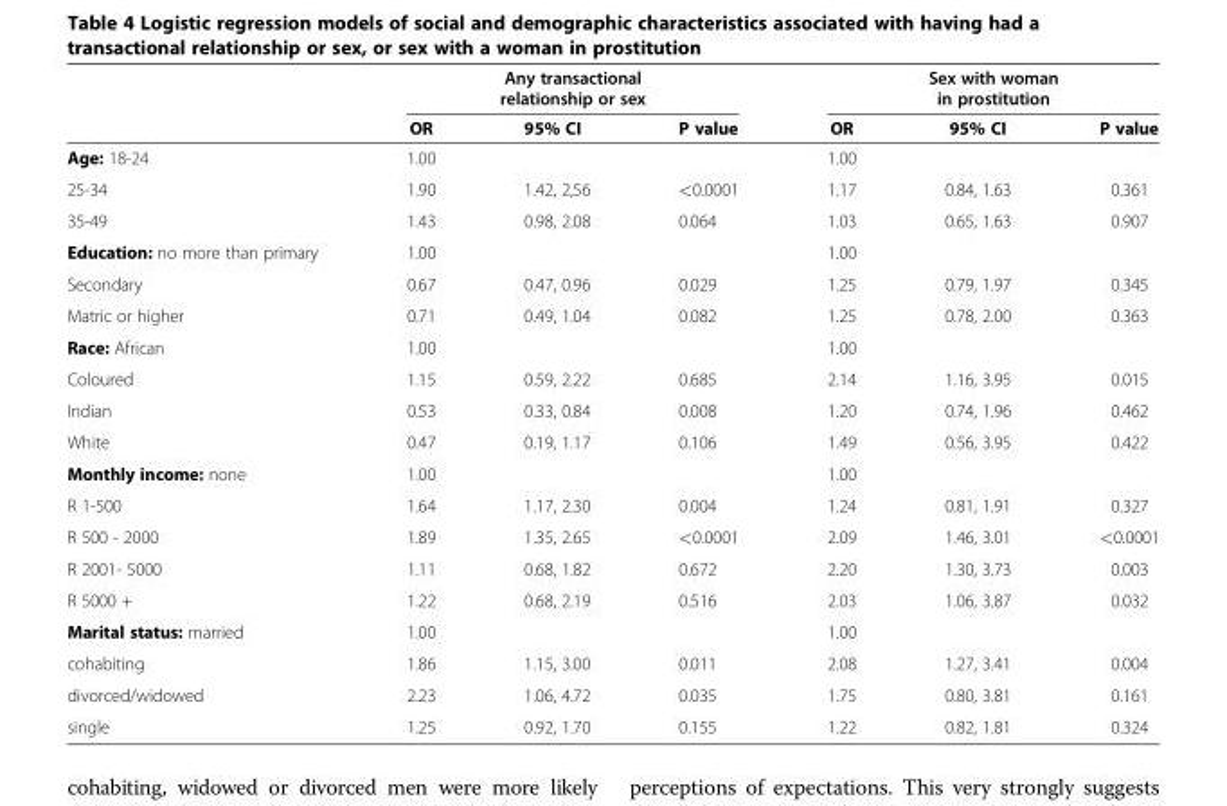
<table><thead><tr><td rowspan="2"></td><td colspan="3">Any transactional relationship or sex</td><td colspan="3">Sex with woman in prostitution</td></tr><tr><td>OR</td><td>95% CI</td><td>P value</td><td>OR</td><td>95% CI</td><td>P value</td></tr></thead><tbody><tr><td>Age: 18-24</td><td>1.00</td><td></td><td></td><td>1.00</td><td></td><td></td></tr><tr><td>25-34</td><td>1.90</td><td>1.42, 2,56</td><td>&lt;0.0001</td><td>1.17</td><td>0.84, 1.63</td><td>0.361</td></tr><tr><td>35-49</td><td>1.43</td><td>0.98, 2.08</td><td>0.064</td><td>1.03</td><td>0.65, 1.63</td><td>0.907</td></tr><tr><td>Education: no more than primary</td><td>1.00</td><td></td><td></td><td>1.00</td><td></td><td></td></tr><tr><td>Secondary</td><td>0.67</td><td>0.47, 0.96</td><td>0.029</td><td>1.25</td><td>0.79, 1.97</td><td>0.345</td></tr><tr><td>Matric or higher</td><td>0.71</td><td>0.49, 1.04</td><td>0.082</td><td>1.25</td><td>0.78, 2.00</td><td>0.363</td></tr><tr><td>Race: African</td><td>1.00</td><td></td><td></td><td>1.00</td><td></td><td></td></tr><tr><td>Coloured</td><td>1.15</td><td>0.59, 2.22</td><td>0.685</td><td>2.14</td><td>1.16, 3.95</td><td>0.015</td></tr><tr><td>Indian</td><td>0.53</td><td>0.33, 0.84</td><td>0.008</td><td>1.20</td><td>0.74, 1.96</td><td>0.462</td></tr><tr><td>White</td><td>0.47</td><td>0.19, 1.17</td><td>0.106</td><td>1.49</td><td>0.56, 3.95</td><td>0.422</td></tr><tr><td>Monthly income: none</td><td>1.00</td><td></td><td></td><td>1.00</td><td></td><td></td></tr><tr><td>R 1-500</td><td>1.64</td><td>1.17, 2.30</td><td>0.004</td><td>1.24</td><td>0.81, 1.91</td><td>0.327</td></tr><tr><td>R 500 - 2000</td><td>1.89</td><td>1.35, 2.65</td><td>&lt;0.0001</td><td>2.09</td><td>1.46, 3.01</td><td>&lt;0.0001</td></tr><tr><td>R 2001- 5000</td><td>1.11</td><td>0.68, 1.82</td><td>0.672</td><td>2.20</td><td>1.30, 3.73</td><td>0.003</td></tr><tr><td>R 5000 +</td><td>1.22</td><td>0.68, 2.19</td><td>0.516</td><td>2.03</td><td>1.06, 3.87</td><td>0.032</td></tr><tr><td>Marital status: married</td><td>1.00</td><td></td><td></td><td>1.00</td><td></td><td></td></tr><tr><td>cohabiting</td><td>1.86</td><td>1.15, 3.00</td><td>0.011</td><td>2.08</td><td>1.27, 3.41</td><td>0.004</td></tr><tr><td>divorced/widowed</td><td>2.23</td><td>1.06, 4.72</td><td>0.035</td><td>1.75</td><td>0.80, 3.81</td><td>0.161</td></tr><tr><td>single</td><td>1.25</td><td>0.92, 1.70</td><td>0.155</td><td>1.22</td><td>0.82, 1.81</td><td>0.324</td></tr></tbody></table>